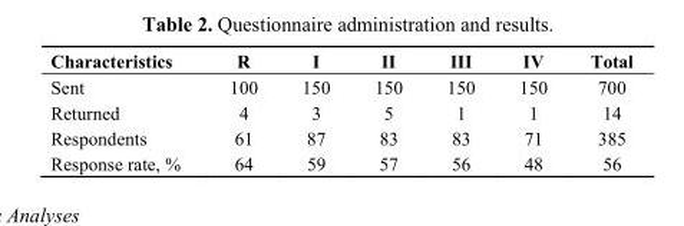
<table><thead><tr><td>Characteristics</td><td>R</td><td>I</td><td>II</td><td>III</td><td>IV</td><td>Total</td></tr></thead><tbody><tr><td>Sent</td><td>100</td><td>150</td><td>150</td><td>150</td><td>150</td><td>700</td></tr><tr><td>Returned</td><td>4</td><td>3</td><td>5</td><td>1</td><td>1</td><td>14</td></tr><tr><td>Respondents</td><td>61</td><td>87</td><td>83</td><td>83</td><td>71</td><td>385</td></tr><tr><td>Response rate, %</td><td>64</td><td>59</td><td>57</td><td>56</td><td>48</td><td>56</td></tr></tbody></table>